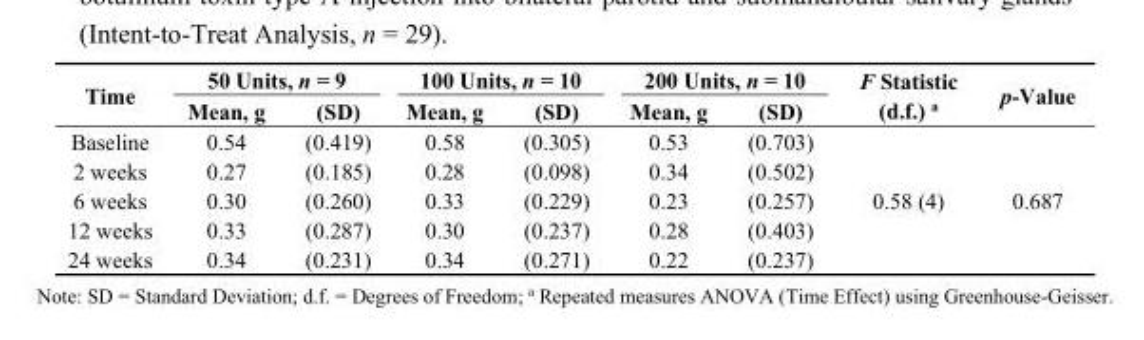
<table><thead><tr><td rowspan="2">Time</td><td colspan="2">50 Units, n = 9</td><td colspan="2">100 Units, n = 10</td><td colspan="2">200 Units, n = 10</td><td rowspan="2">F Statistic (d.f.) <sup>a</sup></td><td rowspan="2">p-Value</td></tr><tr><td>Mean, g</td><td>(SD)</td><td>Mean, g</td><td>(SD)</td><td>Mean, g</td><td>(SD)</td></tr></thead><tbody><tr><td>Baseline</td><td>0.54</td><td>(0.419)</td><td>0.58</td><td>(0.305)</td><td>0.53</td><td>(0.703)</td><td rowspan="5">0.58 (4)</td><td rowspan="5">0.687</td></tr><tr><td>2 weeks</td><td>0.27</td><td>(0.185)</td><td>0.28</td><td>(0.098)</td><td>0.34</td><td>(0.502)</td></tr><tr><td>6 weeks</td><td>0.30</td><td>(0.260)</td><td>0.33</td><td>(0.229)</td><td>0.23</td><td>(0.257)</td></tr><tr><td>12 weeks</td><td>0.33</td><td>(0.287)</td><td>0.30</td><td>(0.237)</td><td>0.28</td><td>(0.403)</td></tr><tr><td>24 weeks</td><td>0.34</td><td>(0.231)</td><td>0.34</td><td>(0.271)</td><td>0.22</td><td>(0.237)</td></tr></tbody></table>